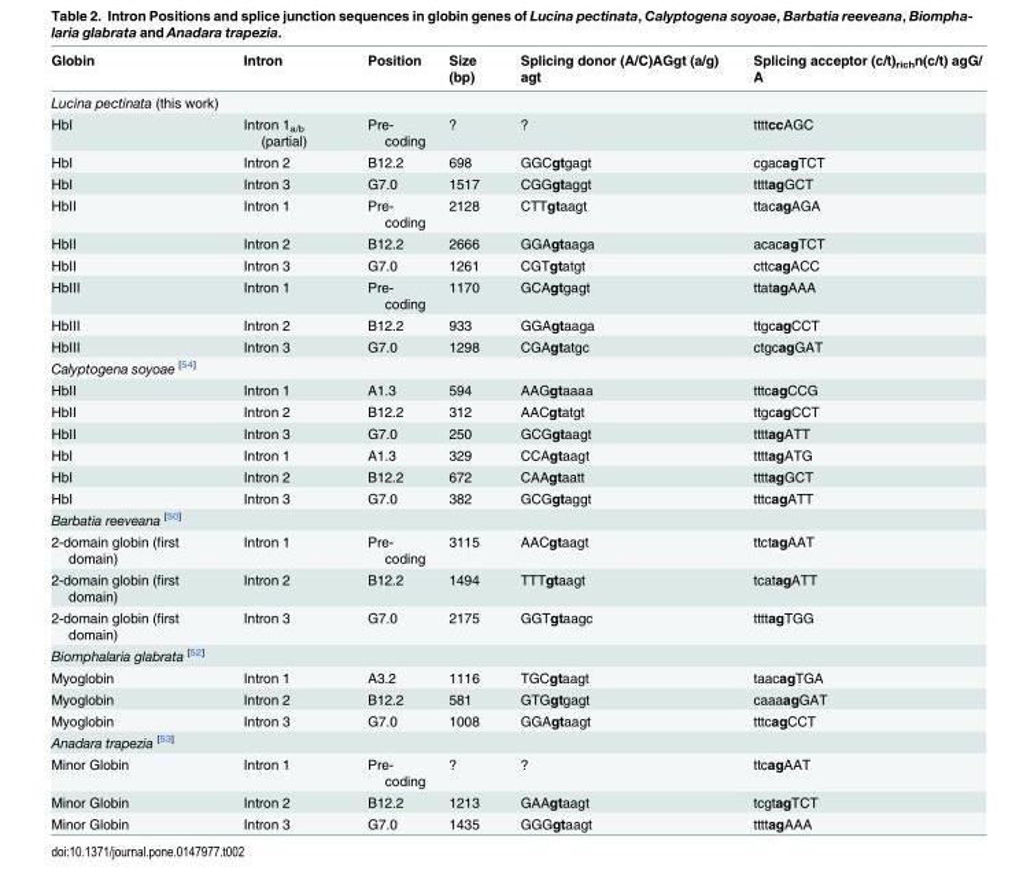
<table><thead><tr><td>Globin</td><td>Intron</td><td>Position</td><td>Size (bp)</td><td>Splicing donor (A/C)AGgt (a/g) agt</td><td>Splicing acceptor (c/t)<sub>rich</sub>n(c/t) agG/ A</td></tr></thead><tbody><tr><td colspan="6">Lucina pectinata (this work)</td></tr><tr><td>HbI</td><td>Intron 1<sub>a/b</sub> (partial)</td><td>Pre- coding</td><td>?</td><td>?</td><td>ttttccAGC</td></tr><tr><td>HbI</td><td>Intron 2</td><td>B12.2</td><td>698</td><td>GGCgtgagt</td><td>cgacagTCT</td></tr><tr><td>HbI</td><td>Intron 3</td><td>G7.0</td><td>1517</td><td>CGGgtaggt</td><td>ttttagGCT</td></tr><tr><td>HbII</td><td>Intron 1</td><td>Pre- coding</td><td>2128</td><td>CTTgtaagt</td><td>ttacagAGA</td></tr><tr><td>HbII</td><td>Intron 2</td><td>B12.2</td><td>2666</td><td>GGAgtaaga</td><td>acacagTCT</td></tr><tr><td>HbII</td><td>Intron 3</td><td>G7.0</td><td>1261</td><td>CGTgtatgt</td><td>cttcagACC</td></tr><tr><td>HbIII</td><td>Intron 1</td><td>Pre- coding</td><td>1170</td><td>GCAgtgagt</td><td>ttatagAAA</td></tr><tr><td>HbIII</td><td>Intron 2</td><td>B12.2</td><td>933</td><td>GGAgtaaga</td><td>ttgcagCCT</td></tr><tr><td>HbIII</td><td>Intron 3</td><td>G7.0</td><td>1298</td><td>CGAgtatgc</td><td>ctgcagGAT</td></tr><tr><td colspan="6">Calyptogena soyoae <sup>[54]</sup></td></tr><tr><td>HbII</td><td>Intron 1</td><td>A1.3</td><td>594</td><td>AAGgtaaaa</td><td>tttcagCCG</td></tr><tr><td>HbII</td><td>Intron 2</td><td>B12.2</td><td>312</td><td>AACgtatgt</td><td>ttgcagCCT</td></tr><tr><td>HbII</td><td>Intron 3</td><td>G7.0</td><td>250</td><td>GCGgtaagt</td><td>ttttagATT</td></tr><tr><td>HbI</td><td>Intron 1</td><td>A1.3</td><td>329</td><td>CCAgtaagt</td><td>ttttagATG</td></tr><tr><td>HbI</td><td>Intron 2</td><td>B12.2</td><td>672</td><td>CAAgtaatt</td><td>ttttagGCT</td></tr><tr><td>HbI</td><td>Intron 3</td><td>G7.0</td><td>382</td><td>GCGgtaggt</td><td>tttcagATT</td></tr><tr><td colspan="6">Barbatia reeveana <sup>[50]</sup></td></tr><tr><td>2-domain globin (first domain)</td><td>Intron 1</td><td>Pre- coding</td><td>3115</td><td>AACgtaagt</td><td>ttctagAAT</td></tr><tr><td>2-domain globin (first domain)</td><td>Intron 2</td><td>B12.2</td><td>1494</td><td>TTTgtaagt</td><td>tcatagATT</td></tr><tr><td>2-domain globin (first domain)</td><td>Intron 3</td><td>G7.0</td><td>2175</td><td>GGTgtaagc</td><td>ttttagTGG</td></tr><tr><td colspan="6">Biomphalaria glabrata <sup>[52]</sup></td></tr><tr><td>Myoglobin</td><td>Intron 1</td><td>A3.2</td><td>1116</td><td>TGCgtaagt</td><td>taacagTGA</td></tr><tr><td>Myoglobin</td><td>Intron 2</td><td>B12.2</td><td>581</td><td>GTGgtgagt</td><td>caaaagGAT</td></tr><tr><td>Myoglobin</td><td>Intron 3</td><td>G7.0</td><td>1008</td><td>GGAgtaagt</td><td>tttcagCCT</td></tr><tr><td colspan="6">Anadara trapezia <sup>[53]</sup></td></tr><tr><td>Minor Globin</td><td>Intron 1</td><td>Pre- coding</td><td>?</td><td>?</td><td>ttcagAAT</td></tr><tr><td>Minor Globin</td><td>Intron 2</td><td>B12.2</td><td>1213</td><td>GAAgtaagt</td><td>tcgtagTCT</td></tr><tr><td>Minor Globin</td><td>Intron 3</td><td>G7.0</td><td>1435</td><td>GGGgtaagt</td><td>ttttagAAA</td></tr></tbody></table>